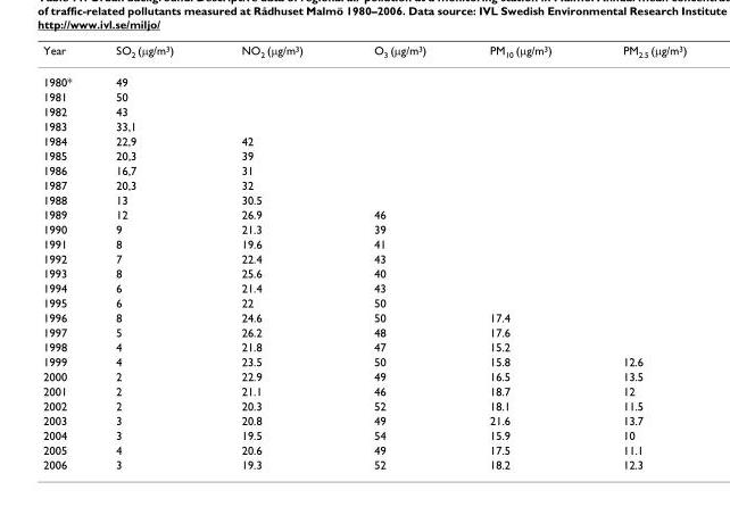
<table><thead><tr><td>Year</td><td>SO<sub>2</sub> (μg/m<sup>3</sup>)</td><td>NO<sub>2</sub> (μg/m<sup>3</sup>)</td><td>O<sub>3</sub> (μg/m<sup>3</sup>)</td><td>PM<sub>10</sub> (μg/m<sup>3</sup>)</td><td>PM<sub>2.5</sub> (μg/m<sup>3</sup>)</td></tr></thead><tbody><tr><td>1980*</td><td>49</td><td></td><td></td><td></td><td></td></tr><tr><td>1981</td><td>50</td><td></td><td></td><td></td><td></td></tr><tr><td>1982</td><td>43</td><td></td><td></td><td></td><td></td></tr><tr><td>1983</td><td>33,1</td><td></td><td></td><td></td><td></td></tr><tr><td>1984</td><td>22,9</td><td>42</td><td></td><td></td><td></td></tr><tr><td>1985</td><td>20,3</td><td>39</td><td></td><td></td><td></td></tr><tr><td>1986</td><td>16,7</td><td>31</td><td></td><td></td><td></td></tr><tr><td>1987</td><td>20,3</td><td>32</td><td></td><td></td><td></td></tr><tr><td>1988</td><td>13</td><td>30.5</td><td></td><td></td><td></td></tr><tr><td>1989</td><td>12</td><td>26.9</td><td>46</td><td></td><td></td></tr><tr><td>1990</td><td>9</td><td>21.3</td><td>39</td><td></td><td></td></tr><tr><td>1991</td><td>8</td><td>19.6</td><td>41</td><td></td><td></td></tr><tr><td>1992</td><td>7</td><td>22.4</td><td>43</td><td></td><td></td></tr><tr><td>1993</td><td>8</td><td>25.6</td><td>40</td><td></td><td></td></tr><tr><td>1994</td><td>6</td><td>21.4</td><td>43</td><td></td><td></td></tr><tr><td>1995</td><td>6</td><td>22</td><td>50</td><td></td><td></td></tr><tr><td>1996</td><td>8</td><td>24.6</td><td>50</td><td>17.4</td><td></td></tr><tr><td>1997</td><td>5</td><td>26.2</td><td>48</td><td>17.6</td><td></td></tr><tr><td>1998</td><td>4</td><td>21.8</td><td>47</td><td>15.2</td><td></td></tr><tr><td>1999</td><td>4</td><td>23.5</td><td>50</td><td>15.8</td><td>12.6</td></tr><tr><td>2000</td><td>2</td><td>22.9</td><td>49</td><td>16.5</td><td>13.5</td></tr><tr><td>2001</td><td>2</td><td>21.1</td><td>46</td><td>18.7</td><td>12</td></tr><tr><td>2002</td><td>2</td><td>20.3</td><td>52</td><td>18.1</td><td>11.5</td></tr><tr><td>2003</td><td>3</td><td>20.8</td><td>49</td><td>21.6</td><td>13.7</td></tr><tr><td>2004</td><td>3</td><td>19.5</td><td>54</td><td>15.9</td><td>10</td></tr><tr><td>2005</td><td>4</td><td>20.6</td><td>49</td><td>17.5</td><td>11.1</td></tr><tr><td>2006</td><td>3</td><td>19.3</td><td>52</td><td>18.2</td><td>12.3</td></tr></tbody></table>